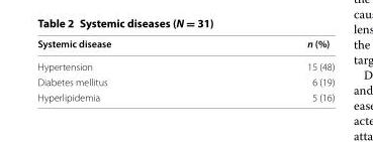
<table><thead><tr><td>Systemic disease</td><td>n (%)</td></tr></thead><tbody><tr><td>Hypertension</td><td>15 (48)</td></tr><tr><td>Diabetes mellitus</td><td>6 (19)</td></tr><tr><td>Hyperlipidemia</td><td>5 (16)</td></tr></tbody></table>